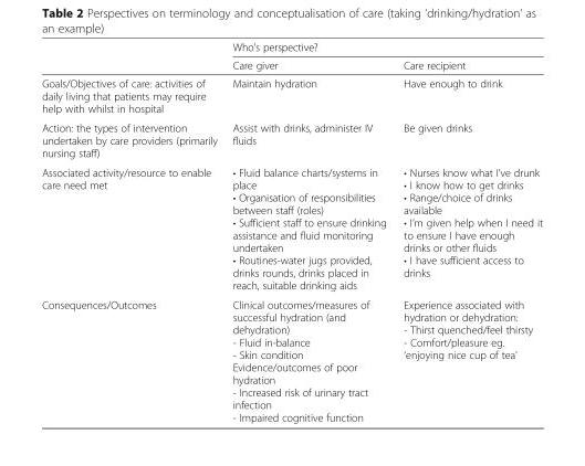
<table><thead><tr><td rowspan="2"></td><td colspan="2">Who’s perspective?</td></tr><tr><td>Care giver</td><td>Care recipient</td></tr></thead><tbody><tr><td>Goals/Objectives of care: activities of daily living that patients may require help with whilst in hospital</td><td>Maintain hydration</td><td>Have enough to drink</td></tr><tr><td>Action: the types of intervention undertaken by care providers (primarily nursing staff)</td><td>Assist with drinks, administer IV fluids</td><td>Be given drinks</td></tr><tr><td>Associated activity/resource to enable care need met</td><td>• Fluid balance charts/systems in place • Organisation of responsibilities between staff (roles) • Sufficient staff to ensure drinking assistance and fluid monitoring undertaken • Routines-water jugs provided, drinks rounds, drinks placed in reach, suitable drinking aids</td><td>• Nurses know what I’ve drunk • I know how to get drinks • Range/choice of drinks available • I’m given help when I need it to ensure I have enough drinks or other fluids • I have sufficient access to drinks</td></tr><tr><td>Consequences/Outcomes</td><td>Clinical outcomes/measures of successful hydration (and dehydration) - Fluid in-balance - Skin condition Evidence/outcomes of poor hydration - Increased risk of urinary tract infection - Impaired cognitive function</td><td>Experience associated with hydration or dehydration: - Thirst quenched/feel thirsty - Comfort/pleasure eg. ‘enjoying nice cup of tea’</td></tr></tbody></table>